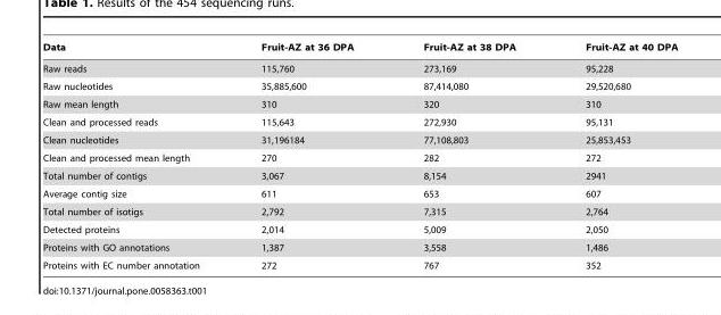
<table><thead><tr><td>Data</td><td>Fruit-AZ at 36 DPA</td><td>Fruit-AZ at 38 DPA</td><td>Fruit-AZ at 40 DPA</td></tr></thead><tbody><tr><td>Raw reads</td><td>115,760</td><td>273,169</td><td>95,228</td></tr><tr><td>Raw nucleotides</td><td>35,885,600</td><td>87,414,080</td><td>29,520,680</td></tr><tr><td>Raw mean length</td><td>310</td><td>320</td><td>310</td></tr><tr><td>Clean and processed reads</td><td>115,643</td><td>272,930</td><td>95,131</td></tr><tr><td>Clean nucleotides</td><td>31,196184</td><td>77,108,803</td><td>25,853,453</td></tr><tr><td>Clean and processed mean length</td><td>270</td><td>282</td><td>272</td></tr><tr><td>Total number of contigs</td><td>3,067</td><td>8,154</td><td>2941</td></tr><tr><td>Average contig size</td><td>611</td><td>653</td><td>607</td></tr><tr><td>Total number of isotigs</td><td>2,792</td><td>7,315</td><td>2,764</td></tr><tr><td>Detected proteins</td><td>2,014</td><td>5,009</td><td>2,050</td></tr><tr><td>Proteins with GO annotations</td><td>1,387</td><td>3,558</td><td>1,486</td></tr><tr><td>Proteins with EC number annotation</td><td>272</td><td>767</td><td>352</td></tr></tbody></table>